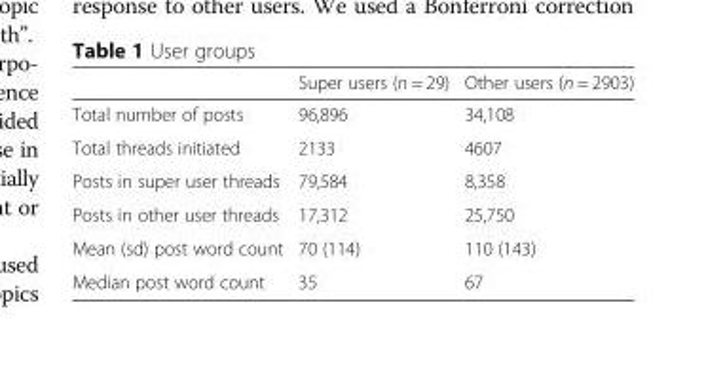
<table><thead><tr><td></td><td>Super users (n = 29)</td><td>Other users (n = 2903)</td></tr></thead><tbody><tr><td>Total number of posts</td><td>96,896</td><td>34,108</td></tr><tr><td>Total threads initiated</td><td>2133</td><td>4607</td></tr><tr><td>Posts in super user threads</td><td>79,584</td><td>8,358</td></tr><tr><td>Posts in other user threads</td><td>17,312</td><td>25,750</td></tr><tr><td>Mean (sd) post word count</td><td>70 (114)</td><td>110 (143)</td></tr><tr><td>Median post word count</td><td>35</td><td>67</td></tr></tbody></table>